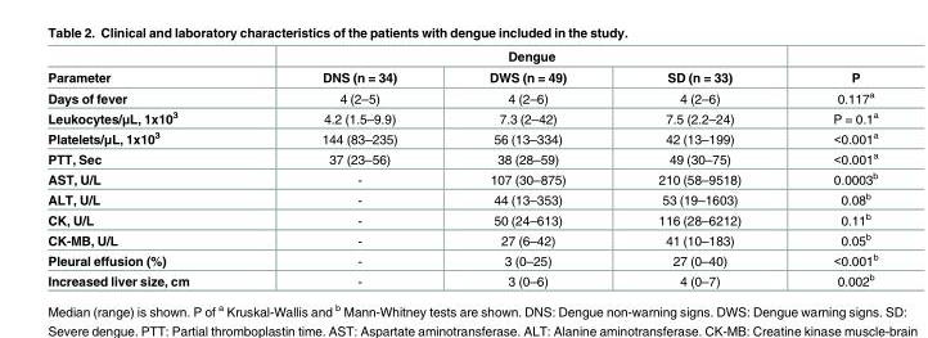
<table><thead><tr><td rowspan="2">Parameter</td><td colspan="3">Dengue</td><td rowspan="2">P</td></tr><tr><td>DNS (n = 34)</td><td>DWS (n = 49)</td><td>SD (n = 33)</td></tr></thead><tbody><tr><td>Days of fever</td><td>4 (2–5)</td><td>4 (2–6)</td><td>4 (2–6)</td><td>0.117<sup>a</sup></td></tr><tr><td>Leukocytes/μL, 1x10<sup>3</sup></td><td>4.2 (1.5–9.9)</td><td>7.3 (2–42)</td><td>7.5 (2.2–24)</td><td>P = 0.1<sup>a</sup></td></tr><tr><td>Platelets/μL, 1x10<sup>3</sup></td><td>144 (83–235)</td><td>56 (13–334)</td><td>42 (13–199)</td><td>&lt;0.001<sup>a</sup></td></tr><tr><td>PTT, Sec</td><td>37 (23–56)</td><td>38 (28–59)</td><td>49 (30–75)</td><td>&lt;0.001<sup>a</sup></td></tr><tr><td>AST, U/L</td><td>-</td><td>107 (30–875)</td><td>210 (58–9518)</td><td>0.0003<sup>b</sup></td></tr><tr><td>ALT, U/L</td><td>-</td><td>44 (13–353)</td><td>53 (19–1603)</td><td>0.08<sup>b</sup></td></tr><tr><td>CK, U/L</td><td>-</td><td>50 (24–613)</td><td>116 (28–6212)</td><td>0.11<sup>b</sup></td></tr><tr><td>CK-MB, U/L</td><td>-</td><td>27 (6–42)</td><td>41 (10–183)</td><td>0.05<sup>b</sup></td></tr><tr><td>Pleural effusion (%)</td><td>-</td><td>3 (0–25)</td><td>27 (0–40)</td><td>&lt;0.001<sup>b</sup></td></tr><tr><td>Increased liver size, cm</td><td>-</td><td>3 (0–6)</td><td>4 (0–7)</td><td>0.002<sup>b</sup></td></tr></tbody></table>